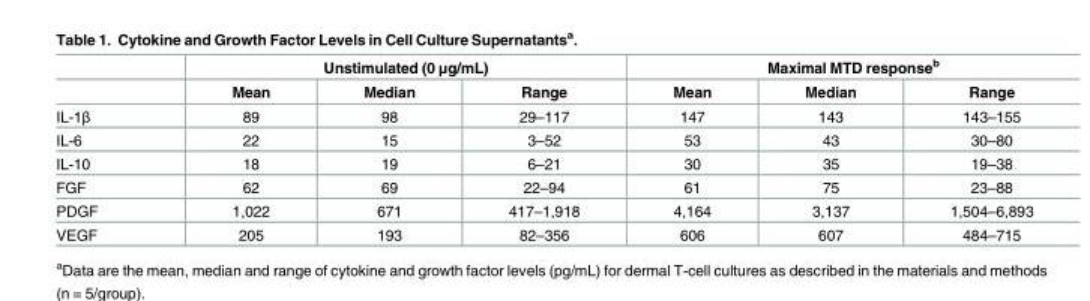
<table><thead><tr><td rowspan="2"></td><td colspan="3">Unstimulated (0 μg/mL)</td><td colspan="3">Maximal MTD response<sup>b</sup></td></tr><tr><td>Mean</td><td>Median</td><td>Range</td><td>Mean</td><td>Median</td><td>Range</td></tr></thead><tbody><tr><td>IL-1β</td><td>89</td><td>98</td><td>29–117</td><td>147</td><td>143</td><td>143–155</td></tr><tr><td>IL-6</td><td>22</td><td>15</td><td>3–52</td><td>53</td><td>43</td><td>30–80</td></tr><tr><td>IL-10</td><td>18</td><td>19</td><td>6–21</td><td>30</td><td>35</td><td>19–38</td></tr><tr><td>FGF</td><td>62</td><td>69</td><td>22–94</td><td>61</td><td>75</td><td>23–88</td></tr><tr><td>PDGF</td><td>1,022</td><td>671</td><td>417–1,918</td><td>4,164</td><td>3,137</td><td>1,504–6,893</td></tr><tr><td>VEGF</td><td>205</td><td>193</td><td>82–356</td><td>606</td><td>607</td><td>484–715</td></tr></tbody></table>